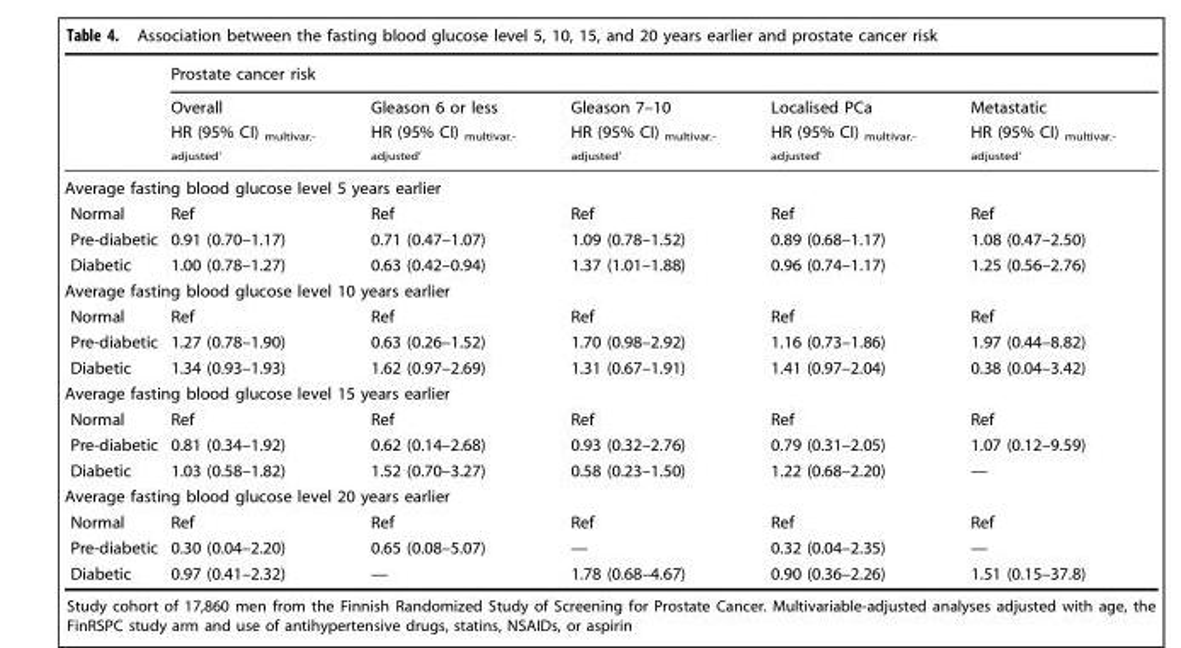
<table><thead><tr><td rowspan="3"></td><td colspan="5">Prostate cancer risk</td></tr><tr><td rowspan="2">Overall HR (95% CI) <sub>multivar.- adjusted’</sub></td><td rowspan="2">Gleason 6 or less HR (95% CI) <sub>multivar.- adjusted’</sub></td><td rowspan="2">Gleason 7–10 HR (95% CI) <sub>multivar.- adjusted’</sub></td><td rowspan="2">Localised PCa HR (95% CI) <sub>multivar.- adjusted’</sub></td><td rowspan="2">Metastatic HR (95% CI) <sub>multivar.- adjusted’</sub></td></tr><tr></tr></thead><tbody><tr><td colspan="6">Average fasting blood glucose level 5 years earlier</td></tr><tr><td>Normal</td><td>Ref</td><td>Ref</td><td>Ref</td><td>Ref</td><td>Ref</td></tr><tr><td>Pre-diabetic</td><td>0.91 (0.70–1.17)</td><td>0.71 (0.47–1.07)</td><td>1.09 (0.78–1.52)</td><td>0.89 (0.68–1.17)</td><td>1.08 (0.47–2.50)</td></tr><tr><td>Diabetic</td><td>1.00 (0.78–1.27)</td><td>0.63 (0.42–0.94)</td><td>1.37 (1.01–1.88)</td><td>0.96 (0.74–1.17)</td><td>1.25 (0.56–2.76)</td></tr><tr><td colspan="6">Average fasting blood glucose level 10 years earlier</td></tr><tr><td>Normal</td><td>Ref</td><td>Ref</td><td>Ref</td><td>Ref</td><td>Ref</td></tr><tr><td>Pre-diabetic</td><td>1.27 (0.78–1.90)</td><td>0.63 (0.26–1.52)</td><td>1.70 (0.98–2.92)</td><td>1.16 (0.73–1.86)</td><td>1.97 (0.44–8.82)</td></tr><tr><td>Diabetic</td><td>1.34 (0.93–1.93)</td><td>1.62 (0.97–2.69)</td><td>1.31 (0.67–1.91)</td><td>1.41 (0.97–2.04)</td><td>0.38 (0.04–3.42)</td></tr><tr><td colspan="6">Average fasting blood glucose level 15 years earlier</td></tr><tr><td>Normal</td><td>Ref</td><td>Ref</td><td>Ref</td><td>Ref</td><td>Ref</td></tr><tr><td>Pre-diabetic</td><td>0.81 (0.34–1.92)</td><td>0.62 (0.14–2.68)</td><td>0.93 (0.32–2.76)</td><td>0.79 (0.31–2.05)</td><td>1.07 (0.12–9.59)</td></tr><tr><td>Diabetic</td><td>1.03 (0.58–1.82)</td><td>1.52 (0.70–3.27)</td><td>0.58 (0.23–1.50)</td><td>1.22 (0.68–2.20)</td><td>—</td></tr><tr><td colspan="6">Average fasting blood glucose level 20 years earlier</td></tr><tr><td>Normal</td><td>Ref</td><td>Ref</td><td>Ref</td><td>Ref</td><td>Ref</td></tr><tr><td>Pre-diabetic</td><td>0.30 (0.04–2.20)</td><td>0.65 (0.08–5.07)</td><td>—</td><td>0.32 (0.04–2.35)</td><td>—</td></tr><tr><td>Diabetic</td><td>0.97 (0.41–2.32)</td><td>—</td><td>1.78 (0.68–4.67)</td><td>0.90 (0.36–2.26)</td><td>1.51 (0.15–37.8)</td></tr></tbody></table>